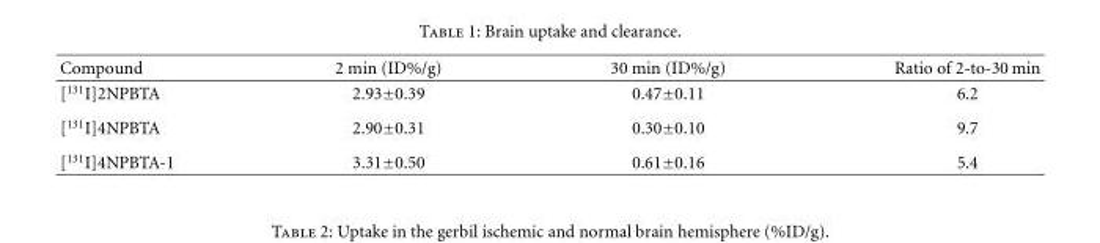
<table><thead><tr><td>Compound</td><td>2 min (ID%/g)</td><td>30 min (ID%/g)</td><td>Ratio of 2-to-30 min</td></tr></thead><tbody><tr><td>[<sup>131</sup>I]2NPBTA</td><td>2.93±0.39</td><td>0.47±0.11</td><td>6.2</td></tr><tr><td>[<sup>131</sup>I]4NPBTA</td><td>2.90±0.31</td><td>0.30±0.10</td><td>9.7</td></tr><tr><td>[<sup>131</sup>I]4NPBTA-1</td><td>3.31±0.50</td><td>0.61±0.16</td><td>5.4</td></tr></tbody></table>